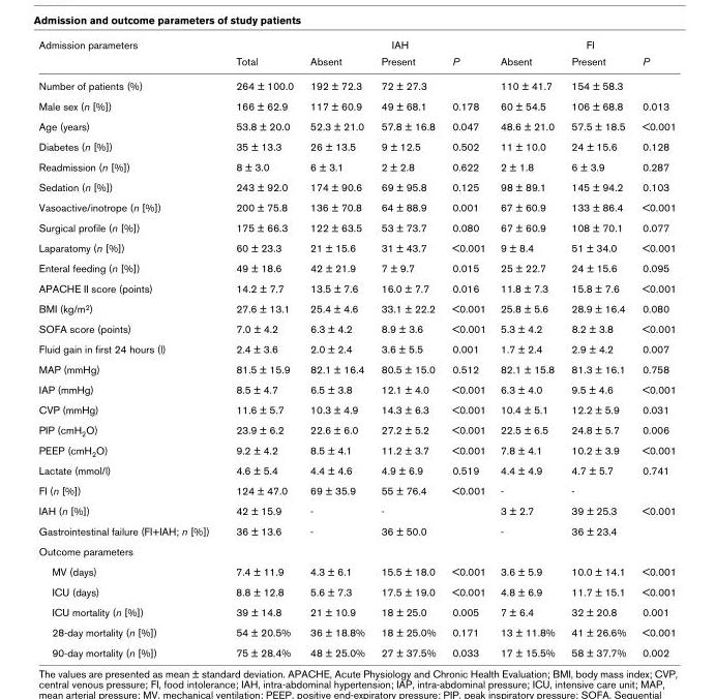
<table><thead><tr><td rowspan="2">Admission parameters</td><td rowspan="2">Total</td><td colspan="3">IAH</td><td colspan="3">FI</td></tr><tr><td>Absent</td><td>Present</td><td>P</td><td>Absent</td><td>Present</td><td>P</td></tr></thead><tbody><tr><td>Number of patients (%)</td><td>264 ± 100.0</td><td>192 ± 72.3</td><td>72 ± 27.3</td><td></td><td>110 ± 41.7</td><td>154 ± 58.3</td><td></td></tr><tr><td>Male sex (n [%])</td><td>166 ± 62.9</td><td>117 ± 60.9</td><td>49 ± 68.1</td><td>0.178</td><td>60 ± 54.5</td><td>106 ± 68.8</td><td>0.013</td></tr><tr><td>Age (years)</td><td>53.8 ± 20.0</td><td>52.3 ± 21.0</td><td>57.8 ± 16.8</td><td>0.047</td><td>48.6 ± 21.0</td><td>57.5 ± 18.5</td><td>&lt;0.001</td></tr><tr><td>Diabetes (n [%])</td><td>35 ± 13.3</td><td>26 ± 13.5</td><td>9 ± 12.5</td><td>0.502</td><td>11 ± 10.0</td><td>24 ± 15.6</td><td>0.128</td></tr><tr><td>Readmission (n [%])</td><td>8 ± 3.0</td><td>6 ± 3.1</td><td>2 ± 2.8</td><td>0.622</td><td>2 ± 1.8</td><td>6 ± 3.9</td><td>0.287</td></tr><tr><td>Sedation (n [%])</td><td>243 ± 92.0</td><td>174 ± 90.6</td><td>69 ± 95.8</td><td>0.125</td><td>98 ± 89.1</td><td>145 ± 94.2</td><td>0.103</td></tr><tr><td>Vasoactive/inotrope (n [%])</td><td>200 ± 75.8</td><td>136 ± 70.8</td><td>64 ± 88.9</td><td>0.001</td><td>67 ± 60.9</td><td>133 ± 86.4</td><td>&lt;0.001</td></tr><tr><td>Surgical profile (n [%])</td><td>175 ± 66.3</td><td>122 ± 63.5</td><td>53 ± 73.7</td><td>0.080</td><td>67 ± 60.9</td><td>108 ± 70.1</td><td>0.077</td></tr><tr><td>Laparatomy (n [%])</td><td>60 ± 23.3</td><td>21 ± 15.6</td><td>31 ± 43.7</td><td>&lt;0.001</td><td>9 ± 8.4</td><td>51 ± 34.0</td><td>&lt;0.001</td></tr><tr><td>Enteral feeding (n [%])</td><td>49 ± 18.6</td><td>42 ± 21.9</td><td>7 ± 9.7</td><td>0.015</td><td>25 ± 22.7</td><td>24 ± 15.6</td><td>0.095</td></tr><tr><td>APACHE II score (points)</td><td>14.2 ± 7.7</td><td>13.5 ± 7.6</td><td>16.0 ± 7.7</td><td>0.016</td><td>11.8 ± 7.3</td><td>15.8 ± 7.6</td><td>&lt;0.001</td></tr><tr><td>BMI (kg/m<sup>2</sup>)</td><td>27.6 ± 13.1</td><td>25.4 ± 4.6</td><td>33.1 ± 22.2</td><td>&lt;0.001</td><td>25.8 ± 5.6</td><td>28.9 ± 16.4</td><td>0.080</td></tr><tr><td>SOFA score (points)</td><td>7.0 ± 4.2</td><td>6.3 ± 4.2</td><td>8.9 ± 3.6</td><td>&lt;0.001</td><td>5.3 ± 4.2</td><td>8.2 ± 3.8</td><td>&lt;0.001</td></tr><tr><td>Fluid gain in first 24 hours (l)</td><td>2.4 ± 3.6</td><td>2.0 ± 2.4</td><td>3.6 ± 5.5</td><td>0.001</td><td>1.7 ± 2.4</td><td>2.9 ± 4.2</td><td>0.007</td></tr><tr><td>MAP (mmHg)</td><td>81.5 ± 15.9</td><td>82.1 ± 16.4</td><td>80.5 ± 15.0</td><td>0.512</td><td>82.1 ± 15.8</td><td>81.3 ± 16.1</td><td>0.758</td></tr><tr><td>IAP (mmHg)</td><td>8.5 ± 4.7</td><td>6.5 ± 3.8</td><td>12.1 ± 4.0</td><td>&lt;0.001</td><td>6.3 ± 4.0</td><td>9.5 ± 4.6</td><td>&lt;0.001</td></tr><tr><td>CVP (mmHg)</td><td>11.6 ± 5.7</td><td>10.3 ± 4.9</td><td>14.3 ± 6.3</td><td>&lt;0.001</td><td>10.4 ± 5.1</td><td>12.2 ± 5.9</td><td>0.031</td></tr><tr><td>PIP (cmH<sub>2</sub>O)</td><td>23.9 ± 6.2</td><td>22.6 ± 6.0</td><td>27.2 ± 5.2</td><td>&lt;0.001</td><td>22.5 ± 6.5</td><td>24.8 ± 5.7</td><td>0.006</td></tr><tr><td>PEEP (cmH<sub>2</sub>O)</td><td>9.2 ± 4.2</td><td>8.5 ± 4.1</td><td>11.2 ± 3.7</td><td>&lt;0.001</td><td>7.8 ± 4.1</td><td>10.2 ± 3.9</td><td>&lt;0.001</td></tr><tr><td>Lactate (mmol/l)</td><td>4.6 ± 5.4</td><td>4.4 ± 4.6</td><td>4.9 ± 6.9</td><td>0.519</td><td>4.4 ± 4.9</td><td>4.7 ± 5.7</td><td>0.741</td></tr><tr><td>FI (n [%])</td><td>124 ± 47.0</td><td>69 ± 35.9</td><td>55 ± 76.4</td><td>&lt;0.001</td><td>-</td><td>-</td><td></td></tr><tr><td>IAH (n [%])</td><td>42 ± 15.9</td><td>-</td><td>-</td><td></td><td>3 ± 2.7</td><td>39 ± 25.3</td><td>&lt;0.001</td></tr><tr><td>Gastrointestinal failure (FI+IAH; n [%])</td><td>36 ± 13.6</td><td>-</td><td>36 ± 50.0</td><td></td><td>-</td><td>36 ± 23.4</td><td></td></tr><tr><td colspan="8">Outcome parameters</td></tr><tr><td>MV (days)</td><td>7.4 ± 11.9</td><td>4.3 ± 6.1</td><td>15.5 ± 18.0</td><td>&lt;0.001</td><td>3.6 ± 5.9</td><td>10.0 ± 14.1</td><td>&lt;0.001</td></tr><tr><td>ICU (days)</td><td>8.8 ± 12.8</td><td>5.6 ± 7.3</td><td>17.5 ± 19.0</td><td>&lt;0.001</td><td>4.8 ± 6.9</td><td>11.7 ± 15.1</td><td>&lt;0.001</td></tr><tr><td>ICU mortality (n [%])</td><td>39 ± 14.8</td><td>21 ± 10.9</td><td>18 ± 25.0</td><td>0.005</td><td>7 ± 6.4</td><td>32 ± 20.8</td><td>0.001</td></tr><tr><td>28-day mortality (n [%])</td><td>54 ± 20.5%</td><td>36 ± 18.8%</td><td>18 ± 25.0%</td><td>0.171</td><td>13 ± 11.8%</td><td>41 ± 26.6%</td><td>&lt;0.001</td></tr><tr><td>90-day mortality (n [%])</td><td>75 ± 28.4%</td><td>48 ± 25.0%</td><td>27 ± 37.5%</td><td>0.033</td><td>17 ± 15.5%</td><td>58 ± 37.7%</td><td>0.002</td></tr></tbody></table>